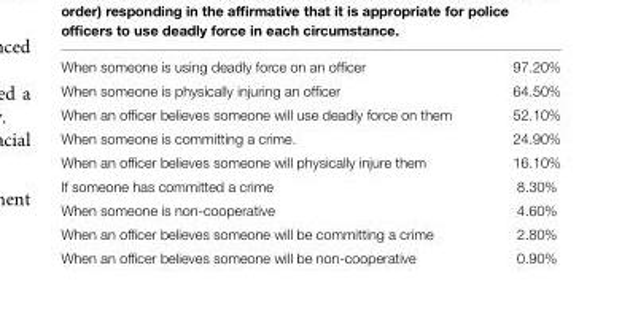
<table><tbody><tr><td>When someone is using deadly force on an officer</td><td>97.20%</td></tr><tr><td>When someone is physically injuring an officer</td><td>64.50%</td></tr><tr><td>When an officer believes someone will use deadly force on them</td><td>52.10%</td></tr><tr><td>When someone is committing a crime.</td><td>24.90%</td></tr><tr><td>When an officer believes someone will physically injure them</td><td>16.10%</td></tr><tr><td>If someone has committed a crime</td><td>8.30%</td></tr><tr><td>When someone is non-cooperative</td><td>4.60%</td></tr><tr><td>When an officer believes someone will be committing a crime</td><td>2.80%</td></tr><tr><td>When an officer believes someone will be non-cooperative</td><td>0.90%</td></tr></tbody></table>